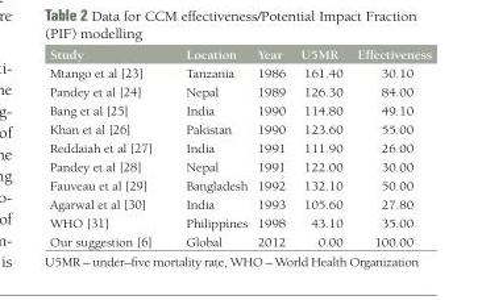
<table><thead><tr><td>Study</td><td>Location</td><td>Year</td><td>U5MR</td><td>Effectiveness</td></tr></thead><tbody><tr><td>Mtango et al [23]</td><td>Tanzania</td><td>1986</td><td>161.40</td><td>30.10</td></tr><tr><td>Pandey et al [24]</td><td>Nepal</td><td>1989</td><td>126.30</td><td>84.00</td></tr><tr><td>Bang et al [25]</td><td>India</td><td>1990</td><td>114.80</td><td>49.10</td></tr><tr><td>Khan et al [26]</td><td>Pakistan</td><td>1990</td><td>123.60</td><td>55.00</td></tr><tr><td>Reddaiah et al [27]</td><td>India</td><td>1991</td><td>111.90</td><td>26.00</td></tr><tr><td>Pandey et al [28]</td><td>Nepal</td><td>1991</td><td>122.00</td><td>30.00</td></tr><tr><td>Fauveau et al [29]</td><td>Bangladesh</td><td>1992</td><td>132.10</td><td>50.00</td></tr><tr><td>Agarwal et al [30]</td><td>India</td><td>1993</td><td>105.60</td><td>27.80</td></tr><tr><td>WHO [31]</td><td>Philippines</td><td>1998</td><td>43.10</td><td>35.00</td></tr><tr><td>Our suggestion [6]</td><td>Global</td><td>2012</td><td>0.00</td><td>100.00</td></tr></tbody></table>